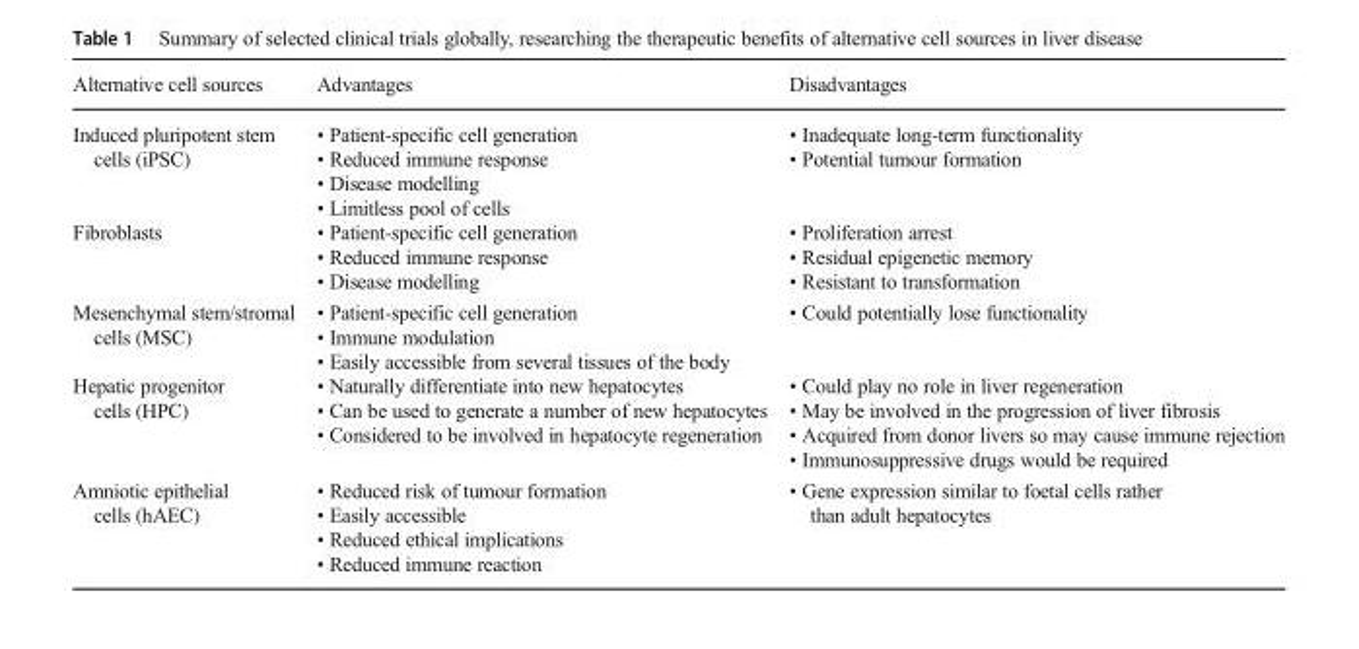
<table><thead><tr><td>Alternative cell sources</td><td>Advantages</td><td>Disadvantages</td></tr></thead><tbody><tr><td>Induced pluripotent stem cells (iPSC)</td><td>• Patient-specific cell generation • Reduced immune response • Disease modelling • Limitless pool of cells</td><td>• Inadequate long-term functionality • Potential tumour formation</td></tr><tr><td>Fibroblasts</td><td>• Patient-specific cell generation • Reduced immune response • Disease modelling</td><td>• Proliferation arrest • Residual epigenetic memory • Resistant to transformation</td></tr><tr><td>Mesenchymal stem/stromal cells (MSC)</td><td>• Patient-specific cell generation • Immune modulation • Easily accessible from several tissues of the body</td><td>• Could potentially lose functionality</td></tr><tr><td>Hepatic progenitor cells (HPC)</td><td>• Naturally differentiate into new hepatocytes • Can be used to generate a number of new hepatocytes • Considered to be involved in hepatocyte regeneration</td><td>• Could play no role in liver regeneration • May be involved in the progression of liver fibrosis • Acquired from donor livers so may cause immune rejection • Immunosuppressive drugs would be required</td></tr><tr><td>Amniotic epithelial cells (hAEC)</td><td>• Reduced risk of tumour formation • Easily accessible • Reduced ethical implications • Reduced immune reaction</td><td>• Gene expression similar to foetal cells rather than adult hepatocytes</td></tr></tbody></table>